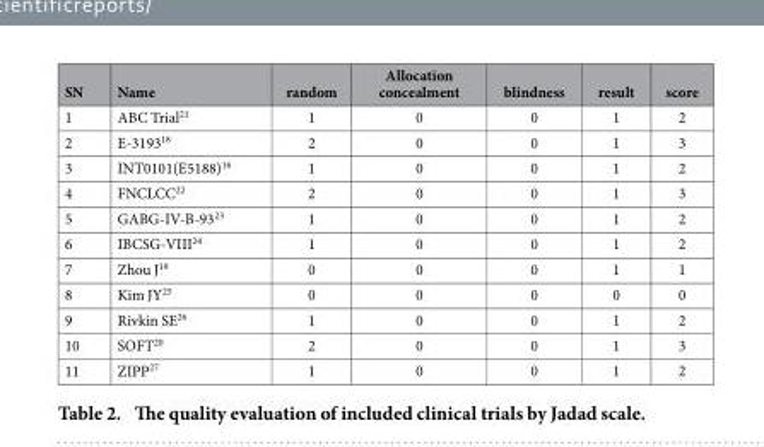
<table><thead><tr><td>SN</td><td>Name</td><td>random</td><td>Allocation concealment</td><td>blindness</td><td>result</td><td>score</td></tr></thead><tbody><tr><td>1</td><td>ABC Trial<sup>21</sup></td><td>1</td><td>0</td><td>0</td><td>1</td><td>2</td></tr><tr><td>2</td><td>E-3193<sup>18</sup></td><td>2</td><td>0</td><td>0</td><td>1</td><td>3</td></tr><tr><td>3</td><td>INT0101(E5188)<sup>16</sup></td><td>1</td><td>0</td><td>0</td><td>1</td><td>2</td></tr><tr><td>4</td><td>FNCLCC<sup>22</sup></td><td>2</td><td>0</td><td>0</td><td>1</td><td>3</td></tr><tr><td>5</td><td>GABG-IV-B-93<sup>23</sup></td><td>1</td><td>0</td><td>0</td><td>1</td><td>2</td></tr><tr><td>6</td><td>IBCSG-VIII<sup>24</sup></td><td>1</td><td>0</td><td>0</td><td>1</td><td>2</td></tr><tr><td>7</td><td>Zhou J<sup>19</sup></td><td>0</td><td>0</td><td>0</td><td>1</td><td>1</td></tr><tr><td>8</td><td>Kim JY<sup>25</sup></td><td>0</td><td>0</td><td>0</td><td>0</td><td>0</td></tr><tr><td>9</td><td>Rivkin SE<sup>26</sup></td><td>1</td><td>0</td><td>0</td><td>1</td><td>2</td></tr><tr><td>10</td><td>SOFT<sup>20</sup></td><td>2</td><td>0</td><td>0</td><td>1</td><td>3</td></tr><tr><td>11</td><td>ZIPP<sup>27</sup></td><td>1</td><td>0</td><td>0</td><td>1</td><td>2</td></tr></tbody></table>